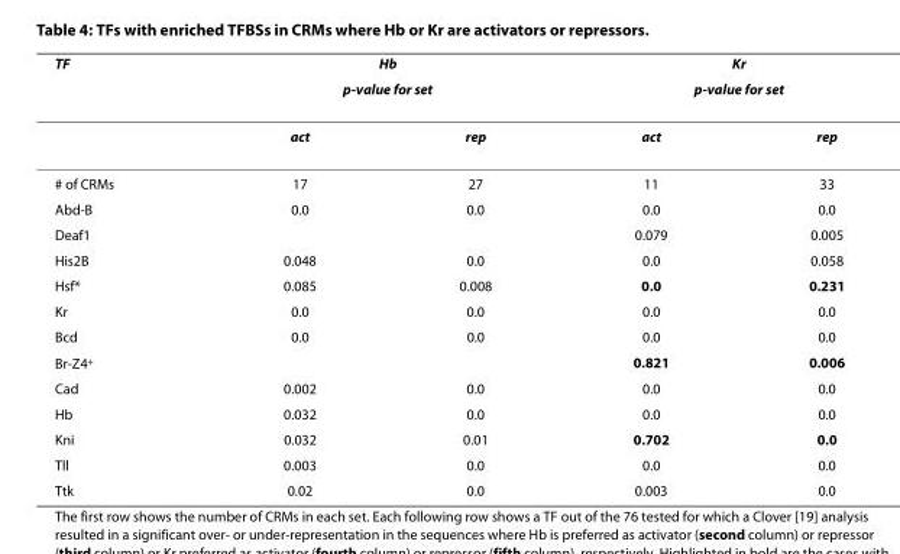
<table><thead><tr><td rowspan="3">TF</td><td rowspan="2" colspan="2">Hb p-value for set</td><td rowspan="2" colspan="2">Kr p-value for set</td></tr><tr></tr><tr><td>act</td><td>rep</td><td>act</td><td>rep</td></tr></thead><tbody><tr><td># of CRMs</td><td>17</td><td>27</td><td>11</td><td>33</td></tr><tr><td>Abd-B</td><td>0.0</td><td>0.0</td><td>0.0</td><td>0.0</td></tr><tr><td>Deaf1</td><td></td><td></td><td>0.079</td><td>0.005</td></tr><tr><td>His2B</td><td>0.048</td><td>0.0</td><td>0.0</td><td>0.058</td></tr><tr><td>Hsf*</td><td>0.085</td><td>0.008</td><td>0.0</td><td>0.231</td></tr><tr><td>Kr</td><td>0.0</td><td>0.0</td><td>0.0</td><td>0.0</td></tr><tr><td>Bcd</td><td>0.0</td><td>0.0</td><td>0.0</td><td>0.0</td></tr><tr><td>Br-Z4<sup>+</sup></td><td></td><td></td><td>0.821</td><td>0.006</td></tr><tr><td>Cad</td><td>0.002</td><td>0.0</td><td>0.0</td><td>0.0</td></tr><tr><td>Hb</td><td>0.032</td><td>0.0</td><td>0.0</td><td>0.0</td></tr><tr><td>Kni</td><td>0.032</td><td>0.01</td><td>0.702</td><td>0.0</td></tr><tr><td>Tll</td><td>0.003</td><td>0.0</td><td>0.0</td><td>0.0</td></tr><tr><td>Ttk</td><td>0.02</td><td>0.0</td><td>0.003</td><td>0.0</td></tr></tbody></table>